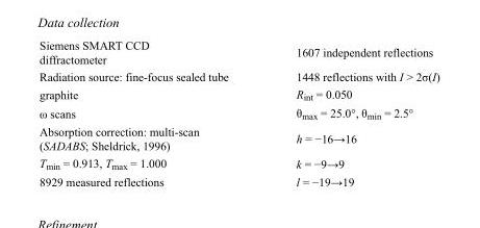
<table><tbody><tr><td>Siemens SMART CCD diffractometer</td><td>1607 independent reflections</td></tr><tr><td>Radiation source: fine-focus sealed tube</td><td>1448 reflections with I &gt; 2σ(I)</td></tr><tr><td>graphite</td><td>R<sub>int</sub> = 0.050</td></tr><tr><td>ω scans</td><td>θ<sub>max</sub> = 25.0°, θ<sub>min</sub> = 2.5°</td></tr><tr><td>Absorption correction: multi-scan (SADABS; Sheldrick, 1996)</td><td>h = −16→16</td></tr><tr><td>T<sub>min</sub> = 0.913, T<sub>max</sub> = 1.000</td><td>k = −9→9</td></tr><tr><td>8929 measured reflections</td><td>l = −19→19</td></tr></tbody></table>